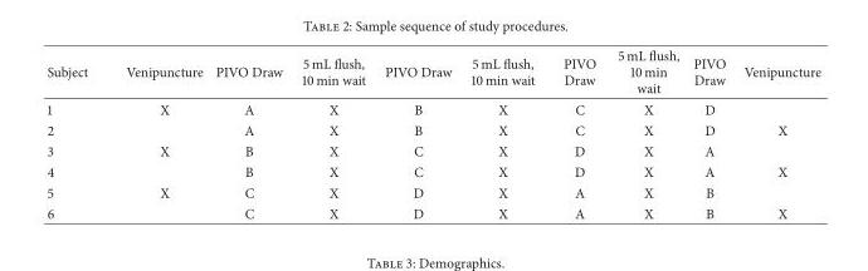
<table><thead><tr><td>Subject</td><td>Venipuncture</td><td>PIVO Draw</td><td>5 mL flush, 10 min wait</td><td>PIVO Draw</td><td>5 mL flush, 10 min wait</td><td>PIVO Draw</td><td>5 mL flush, 10 min wait</td><td>PIVO Draw</td><td>Venipuncture</td></tr></thead><tbody><tr><td>1</td><td>X</td><td>A</td><td>X</td><td>B</td><td>X</td><td>C</td><td>X</td><td>D</td><td></td></tr><tr><td>2</td><td></td><td>A</td><td>X</td><td>B</td><td>X</td><td>C</td><td>X</td><td>D</td><td>X</td></tr><tr><td>3</td><td>X</td><td>B</td><td>X</td><td>C</td><td>X</td><td>D</td><td>X</td><td>A</td><td></td></tr><tr><td>4</td><td></td><td>B</td><td>X</td><td>C</td><td>X</td><td>D</td><td>X</td><td>A</td><td>X</td></tr><tr><td>5</td><td>X</td><td>C</td><td>X</td><td>D</td><td>X</td><td>A</td><td>X</td><td>B</td><td></td></tr><tr><td>6</td><td></td><td>C</td><td>X</td><td>D</td><td>X</td><td>A</td><td>X</td><td>B</td><td>X</td></tr></tbody></table>